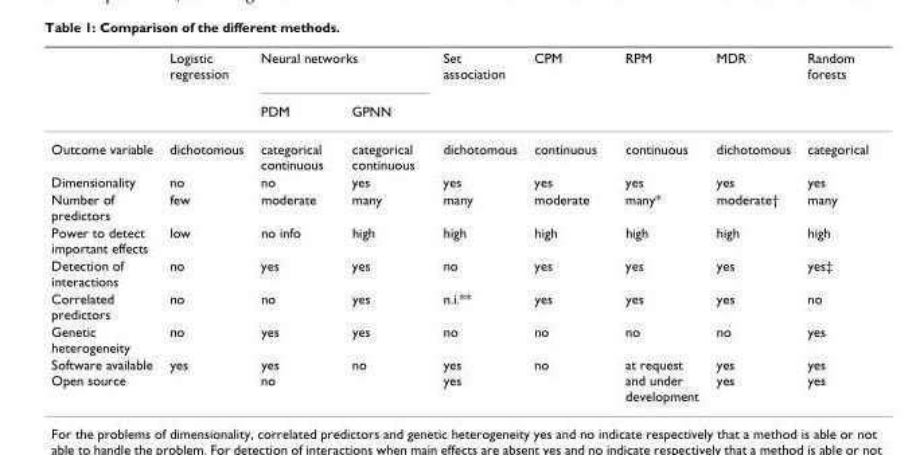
<table><thead><tr><td rowspan="2"></td><td rowspan="2">Logistic regression</td><td colspan="2">Neural networks</td><td rowspan="2">Set association</td><td rowspan="2">CPM</td><td rowspan="2">RPM</td><td rowspan="2">MDR</td><td rowspan="2">Random forests</td></tr><tr><td>PDM</td><td>GPNN</td></tr></thead><tbody><tr><td>Outcome variable</td><td>dichotomous</td><td>categorical continuous</td><td>categorical continuous</td><td>dichotomous</td><td>continuous</td><td>continuous</td><td>dichotomous</td><td>categorical</td></tr><tr><td>Dimensionality</td><td>no</td><td>no</td><td>yes</td><td>yes</td><td>yes</td><td>yes</td><td>yes</td><td>yes</td></tr><tr><td>Number of predictors</td><td>few</td><td>moderate</td><td>many</td><td>many</td><td>moderate</td><td>many*</td><td>moderate†</td><td>many</td></tr><tr><td>Power to detect important effects</td><td>low</td><td>no info</td><td>high</td><td>high</td><td>high</td><td>high</td><td>high</td><td>high</td></tr><tr><td>Detection of interactions</td><td>no</td><td>yes</td><td>yes</td><td>no</td><td>yes</td><td>yes</td><td>yes</td><td>yes‡</td></tr><tr><td>Correlated predictors</td><td>no</td><td>no</td><td>yes</td><td>n.i.**</td><td>yes</td><td>yes</td><td>yes</td><td>no</td></tr><tr><td>Genetic heterogeneity</td><td>no</td><td>yes</td><td>yes</td><td>no</td><td>no</td><td>no</td><td>no</td><td>yes</td></tr><tr><td>Software available Open source</td><td>yes</td><td>yes no</td><td>no</td><td>yes yes</td><td>no</td><td>at request and under development</td><td>yes yes</td><td>yes yes</td></tr></tbody></table>